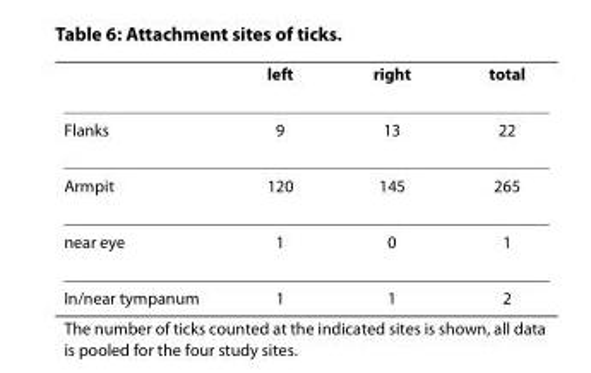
<table><thead><tr><td></td><td>left</td><td>right</td><td>total</td></tr></thead><tbody><tr><td>Flanks</td><td>9</td><td>13</td><td>22</td></tr><tr><td>Armpit</td><td>120</td><td>145</td><td>265</td></tr><tr><td>near eye</td><td>1</td><td>0</td><td>1</td></tr><tr><td>In/near tympanum</td><td>1</td><td>1</td><td>2</td></tr></tbody></table>